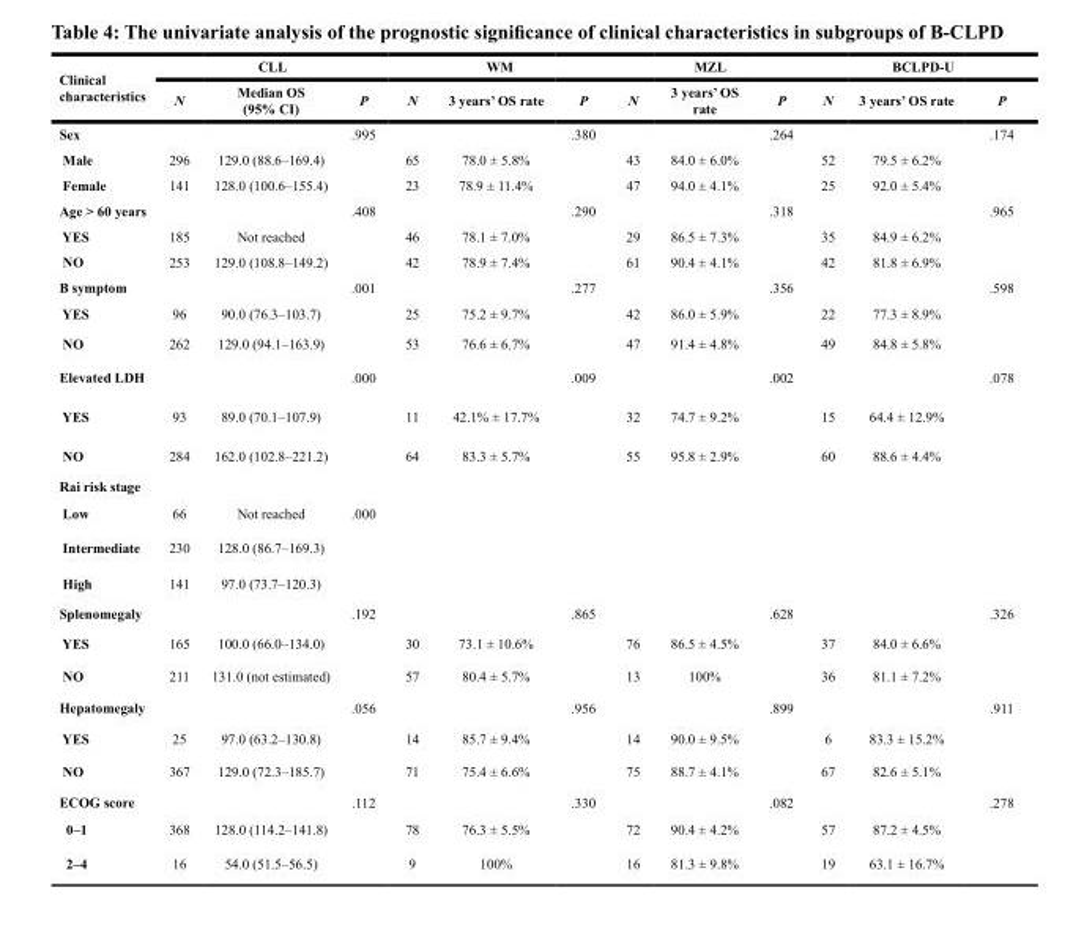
<table><thead><tr><td rowspan="2">Clinical characteristics</td><td colspan="3">CLL</td><td colspan="3">WM</td><td colspan="3">MZL</td><td colspan="3">BCLPD-U</td></tr><tr><td>N</td><td>Median OS (95% CI)</td><td>P</td><td>N</td><td>3 years’ OS rate</td><td>P</td><td>N</td><td>3 years’ OS rate</td><td>P</td><td>N</td><td>3 years’ OS rate</td><td>P</td></tr></thead><tbody><tr><td>Sex</td><td></td><td></td><td>.995</td><td></td><td></td><td>.380</td><td></td><td></td><td>.264</td><td></td><td></td><td>.174</td></tr><tr><td>Male</td><td>296</td><td>129.0 (88.6–169.4)</td><td></td><td>65</td><td>78.0 ± 5.8%</td><td></td><td>43</td><td>84.0 ± 6.0%</td><td></td><td>52</td><td>79.5 ± 6.2%</td><td></td></tr><tr><td>Female</td><td>141</td><td>128.0 (100.6–155.4)</td><td></td><td>23</td><td>78.9 ± 11.4%</td><td></td><td>47</td><td>94.0 ± 4.1%</td><td></td><td>25</td><td>92.0 ± 5.4%</td><td></td></tr><tr><td>Age &gt; 60 years</td><td></td><td></td><td>.408</td><td></td><td></td><td>.290</td><td></td><td></td><td>.318</td><td></td><td></td><td>.965</td></tr><tr><td>YES</td><td>185</td><td>Not reached</td><td></td><td>46</td><td>78.1 ± 7.0%</td><td></td><td>29</td><td>86.5 ± 7.3%</td><td></td><td>35</td><td>84.9 ± 6.2%</td><td></td></tr><tr><td>NO</td><td>253</td><td>129.0 (108.8–149.2)</td><td></td><td>42</td><td>78.9 ± 7.4%</td><td></td><td>61</td><td>90.4 ± 4.1%</td><td></td><td>42</td><td>81.8 ± 6.9%</td><td></td></tr><tr><td>B symptom</td><td></td><td></td><td>.001</td><td></td><td></td><td>.277</td><td></td><td></td><td>.356</td><td></td><td></td><td>.598</td></tr><tr><td>YES</td><td>96</td><td>90.0 (76.3–103.7)</td><td></td><td>25</td><td>75.2 ± 9.7%</td><td></td><td>42</td><td>86.0 ± 5.9%</td><td></td><td>22</td><td>77.3 ± 8.9%</td><td></td></tr><tr><td>NO</td><td>262</td><td>129.0 (94.1–163.9)</td><td></td><td>53</td><td>76.6 ± 6.7%</td><td></td><td>47</td><td>91.4 ± 4.8%</td><td></td><td>49</td><td>84.8 ± 5.8%</td><td></td></tr><tr><td>Elevated LDH</td><td></td><td></td><td>.000</td><td></td><td></td><td>.009</td><td></td><td></td><td>.002</td><td></td><td></td><td>.078</td></tr><tr><td>YES</td><td>93</td><td>89.0 (70.1–107.9)</td><td></td><td>11</td><td>42.1% ± 17.7%</td><td></td><td>32</td><td>74.7 ± 9.2%</td><td></td><td>15</td><td>64.4 ± 12.9%</td><td></td></tr><tr><td>NO</td><td>284</td><td>162.0 (102.8–221.2)</td><td></td><td>64</td><td>83.3 ± 5.7%</td><td></td><td>55</td><td>95.8 ± 2.9%</td><td></td><td>60</td><td>88.6 ± 4.4%</td><td></td></tr><tr><td colspan="13">Rai risk stage</td></tr><tr><td>Low</td><td>66</td><td>Not reached</td><td>.000</td><td></td><td></td><td></td><td></td><td></td><td></td><td></td><td></td><td></td></tr><tr><td>Intermediate</td><td>230</td><td>128.0 (86.7–169.3)</td><td></td><td></td><td></td><td></td><td></td><td></td><td></td><td></td><td></td><td></td></tr><tr><td>High</td><td>141</td><td>97.0 (73.7–120.3)</td><td></td><td></td><td></td><td></td><td></td><td></td><td></td><td></td><td></td><td></td></tr><tr><td>Splenomegaly</td><td></td><td></td><td>.192</td><td></td><td></td><td>.865</td><td></td><td></td><td>.628</td><td></td><td></td><td>.326</td></tr><tr><td>YES</td><td>165</td><td>100.0 (66.0–134.0)</td><td></td><td>30</td><td>73.1 ± 10.6%</td><td></td><td>76</td><td>86.5 ± 4.5%</td><td></td><td>37</td><td>84.0 ± 6.6%</td><td></td></tr><tr><td>NO</td><td>211</td><td>131.0 (not estimated)</td><td></td><td>57</td><td>80.4 ± 5.7%</td><td></td><td>13</td><td>100%</td><td></td><td>36</td><td>81.1 ± 7.2%</td><td></td></tr><tr><td>Hepatomegaly</td><td></td><td></td><td>.056</td><td></td><td></td><td>.956</td><td></td><td></td><td>.899</td><td></td><td></td><td>.911</td></tr><tr><td>YES</td><td>25</td><td>97.0 (63.2–130.8)</td><td></td><td>14</td><td>85.7 ± 9.4%</td><td></td><td>14</td><td>90.0 ± 9.5%</td><td></td><td>6</td><td>83.3 ± 15.2%</td><td></td></tr><tr><td>NO</td><td>367</td><td>129.0 (72.3–185.7)</td><td></td><td>71</td><td>75.4 ± 6.6%</td><td></td><td>75</td><td>88.7 ± 4.1%</td><td></td><td>67</td><td>82.6 ± 5.1%</td><td></td></tr><tr><td>ECOG score</td><td></td><td></td><td>.112</td><td></td><td></td><td>.330</td><td></td><td></td><td>.082</td><td></td><td></td><td>.278</td></tr><tr><td>0–1</td><td>368</td><td>128.0 (114.2–141.8)</td><td></td><td>78</td><td>76.3 ± 5.5%</td><td></td><td>72</td><td>90.4 ± 4.2%</td><td></td><td>57</td><td>87.2 ± 4.5%</td><td></td></tr><tr><td>2–4</td><td>16</td><td>54.0 (51.5–56.5)</td><td></td><td>9</td><td>100%</td><td></td><td>16</td><td>81.3 ± 9.8%</td><td></td><td>19</td><td>63.1 ± 16.7%</td><td></td></tr></tbody></table>